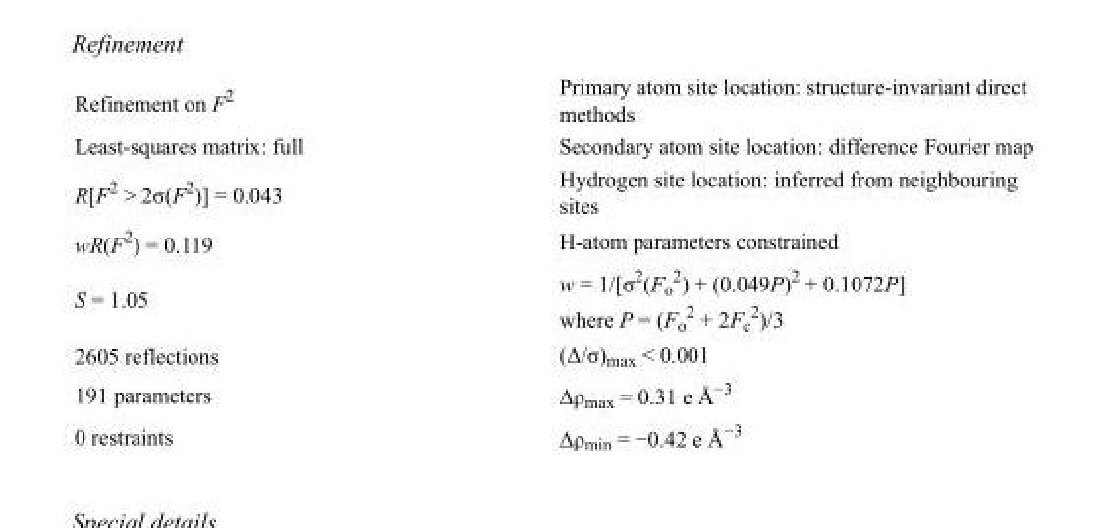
<table><tbody><tr><td>Refinement on F<sup>2</sup></td><td>Primary atom site location: structure-invariant direct methods</td></tr><tr><td>Least-squares matrix: full</td><td>Secondary atom site location: difference Fourier map</td></tr><tr><td>R[F<sup>2</sup> &gt; 2σ(F<sup>2</sup>)] = 0.043</td><td>Hydrogen site location: inferred from neighbouring sites</td></tr><tr><td>wR(F<sup>2</sup>) = 0.119</td><td>H-atom parameters constrained</td></tr><tr><td>S = 1.05</td><td>w = 1/[σ<sup>2</sup>(F<sub>o</sub> <sup>2</sup>) + (0.049P)<sup>2</sup> + 0.1072P] where P = (F<sub>o</sub> <sup>2</sup> + 2F<sub>c</sub> <sup>2</sup>)/3</td></tr><tr><td>2605 reflections</td><td>(Δ/σ)<sub>max</sub> &lt; 0.001</td></tr><tr><td>191 parameters</td><td>Δρ<sub>max</sub> = 0.31 e Å<sup>−3</sup></td></tr><tr><td>0 restraints</td><td>Δρ<sub>min</sub> = −0.42 e Å<sup>−3</sup></td></tr></tbody></table>